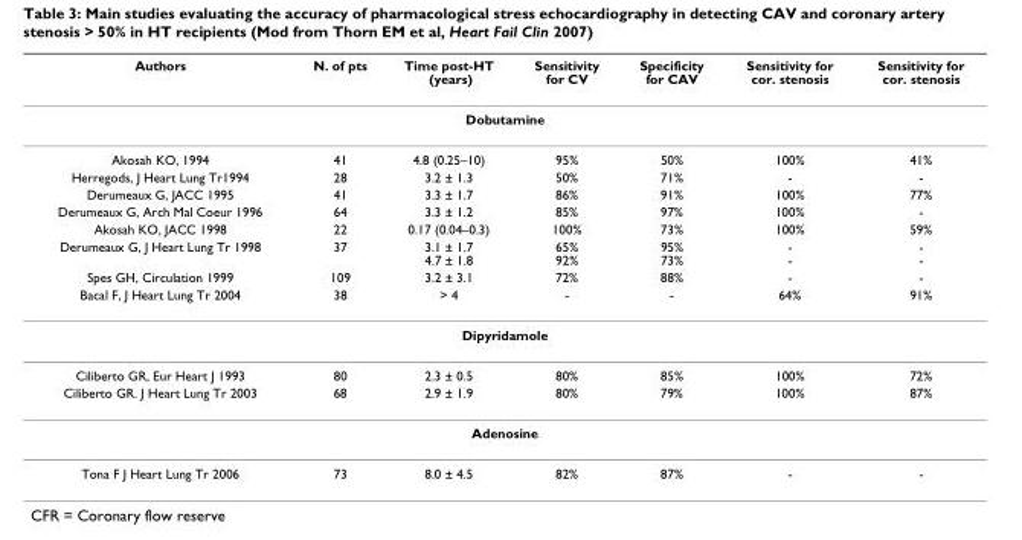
<table><thead><tr><td>Authors</td><td>N. of pts</td><td>Time post-HT (years)</td><td>Sensitivity for CV</td><td>Specificity for CAV</td><td>Sensitivity for cor. stenosis</td><td>Sensitivity for cor. stenosis</td></tr></thead><tbody><tr><td colspan="7">Dobutamine</td></tr><tr><td>Akosah KO, 1994</td><td>41</td><td>4.8 (0.25–10)</td><td>95%</td><td>50%</td><td>100%</td><td>41%</td></tr><tr><td>Herregods, J Heart Lung Tr1994</td><td>28</td><td>3.2 ± 1.3</td><td>50%</td><td>71%</td><td>-</td><td>-</td></tr><tr><td>Derumeaux G, JACC 1995</td><td>41</td><td>3.3 ± 1.7</td><td>86%</td><td>91%</td><td>100%</td><td>77%</td></tr><tr><td>Derumeaux G, Arch Mal Coeur 1996</td><td>64</td><td>3.3 ± 1.2</td><td>85%</td><td>97%</td><td>100%</td><td>-</td></tr><tr><td>Akosah KO, JACC 1998</td><td>22</td><td>0.17 (0.04–0.3)</td><td>100%</td><td>73%</td><td>100%</td><td>59%</td></tr><tr><td>Derumeaux G, J Heart Lung Tr 1998</td><td>37</td><td>3.1 ± 1.7 4.7 ± 1.8</td><td>65% 92%</td><td>95% 73%</td><td>- -</td><td>- -</td></tr><tr><td>Spes GH, Circulation 1999</td><td>109</td><td>3.2 ± 3.1</td><td>72%</td><td>88%</td><td>-</td><td>-</td></tr><tr><td>Bacal F, J Heart Lung Tr 2004</td><td>38</td><td>&gt; 4</td><td>-</td><td>-</td><td>64%</td><td>91%</td></tr><tr><td colspan="7">Dipyridamole</td></tr><tr><td>Ciliberto GR, Eur Heart J 1993</td><td>80</td><td>2.3 ± 0.5</td><td>80%</td><td>85%</td><td>100%</td><td>72%</td></tr><tr><td>Ciliberto GR. J Heart Lung Tr 2003</td><td>68</td><td>2.9 ± 1.9</td><td>80%</td><td>79%</td><td>100%</td><td>87%</td></tr><tr><td colspan="7">Adenosine</td></tr><tr><td>Tona F J Heart Lung Tr 2006</td><td>73</td><td>8.0 ± 4.5</td><td>82%</td><td>87%</td><td>-</td><td>-</td></tr></tbody></table>